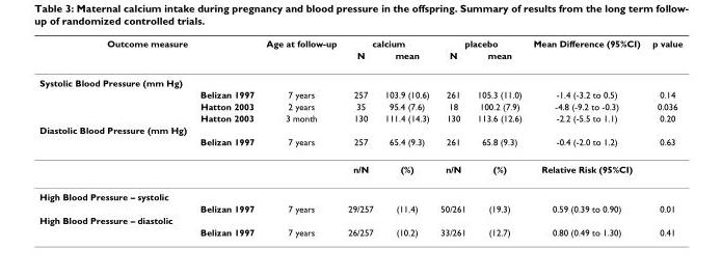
<table><thead><tr><td colspan="2">Outcome measure</td><td rowspan="2">Age at follow-up</td><td colspan="2">calcium</td><td colspan="2">placebo</td><td rowspan="2">Mean Difference (95%CI)</td><td rowspan="2">p value</td></tr><tr><td></td><td></td><td>N</td><td>mean</td><td>N</td><td>mean</td></tr></thead><tbody><tr><td colspan="9">Systolic Blood Pressure (mm Hg)</td></tr><tr><td></td><td>Belizan 1997</td><td>7 years</td><td>257</td><td>103.9 (10.6)</td><td>261</td><td>105.3 (11.0)</td><td>-1.4 (-3.2 to 0.5)</td><td>0.14</td></tr><tr><td></td><td>Hatton 2003</td><td>2 years</td><td>35</td><td>95.4 (7.6)</td><td>18</td><td>100.2 (7.9)</td><td>-4.8 (-9.2 to -0.3)</td><td>0.036</td></tr><tr><td></td><td>Hatton 2003</td><td>3 month</td><td>130</td><td>111.4 (14.3)</td><td>130</td><td>113.6 (12.6)</td><td>-2.2 (-5.5 to 1.1)</td><td>0.20</td></tr><tr><td colspan="9">Diastolic Blood Pressure (mm Hg)</td></tr><tr><td></td><td>Belizan 1997</td><td>7 years</td><td>257</td><td>65.4 (9.3)</td><td>261</td><td>65.8 (9.3)</td><td>-0.4 (-2.0 to 1.2)</td><td>0.63</td></tr><tr><td></td><td></td><td></td><td>n/N</td><td>(%)</td><td>n/N</td><td>(%)</td><td>Relative Risk (95%CI)</td><td></td></tr><tr><td colspan="9">High Blood Pressure – systolic</td></tr><tr><td></td><td>Belizan 1997</td><td>7 years</td><td>29/257</td><td>(11.4)</td><td>50/261</td><td>(19.3)</td><td>0.59 (0.39 to 0.90)</td><td>0.01</td></tr><tr><td colspan="9">High Blood Pressure – diastolic</td></tr><tr><td></td><td>Belizan 1997</td><td>7 years</td><td>26/257</td><td>(10.2)</td><td>33/261</td><td>(12.7)</td><td>0.80 (0.49 to 1.30)</td><td>0.41</td></tr></tbody></table>